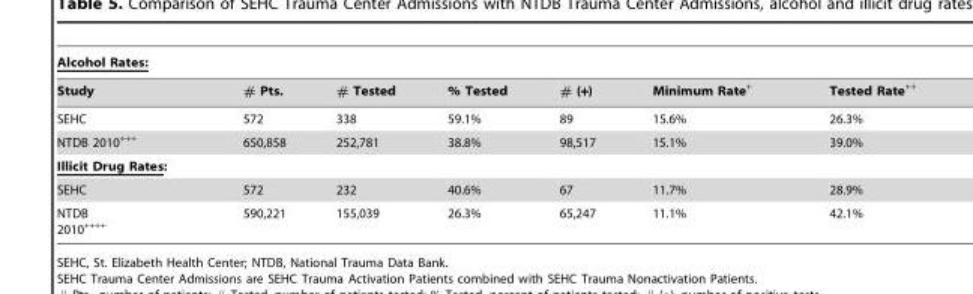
<table><thead><tr><td colspan="7">Alcohol Rates:</td></tr><tr><td>Study</td><td># Pts.</td><td># Tested</td><td>% Tested</td><td># (+)</td><td>Minimum Rate+</td><td>Tested Rate++</td></tr></thead><tbody><tr><td>SEHC</td><td>572</td><td>338</td><td>59.1%</td><td>89</td><td>15.6%</td><td>26.3%</td></tr><tr><td>NTDB 2010+++</td><td>650,858</td><td>252,781</td><td>38.8%</td><td>98,517</td><td>15.1%</td><td>39.0%</td></tr><tr><td colspan="7">Illicit Drug Rates:</td></tr><tr><td>SEHC</td><td>572</td><td>232</td><td>40.6%</td><td>67</td><td>11.7%</td><td>28.9%</td></tr><tr><td>NTDB 2010++++</td><td>590,221</td><td>155,039</td><td>26.3%</td><td>65,247</td><td>11.1%</td><td>42.1%</td></tr></tbody></table>